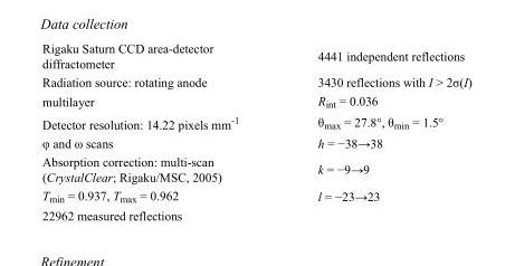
<table><tbody><tr><td>Rigaku Saturn CCD area-detector diffractometer</td><td>4441 independent reflections</td></tr><tr><td>Radiation source: rotating anode</td><td>3430 reflections with I &gt; 2σ(I)</td></tr><tr><td>multilayer</td><td>R<sub>int</sub> = 0.036</td></tr><tr><td>Detector resolution: 14.22 pixels mm<sup>-1</sup></td><td>θ<sub>max</sub> = 27.8°, θ<sub>min</sub> = 1.5°</td></tr><tr><td>φ and ω scans</td><td>h = −38→38</td></tr><tr><td>Absorption correction: multi-scan (CrystalClear; Rigaku/MSC, 2005)</td><td>k = −9→9</td></tr><tr><td>T<sub>min</sub> = 0.937, T<sub>max</sub> = 0.962</td><td>l = −23→23</td></tr><tr><td>22962 measured reflections</td><td></td></tr></tbody></table>